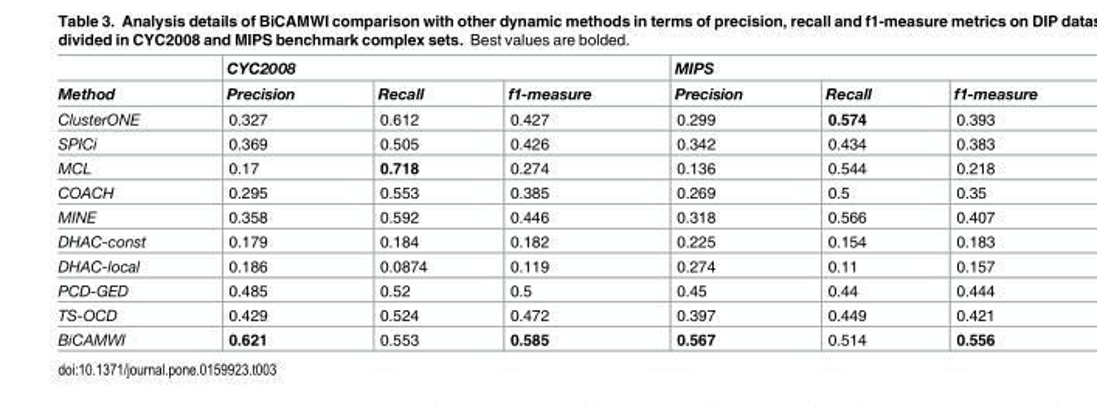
<table><thead><tr><td rowspan="2">Method</td><td colspan="3">CYC2008</td><td colspan="3">MIPS</td></tr><tr><td>Precision</td><td>Recall</td><td>f1-measure</td><td>Precision</td><td>Recall</td><td>f1-measure</td></tr></thead><tbody><tr><td>ClusterONE</td><td>0.327</td><td>0.612</td><td>0.427</td><td>0.299</td><td>0.574</td><td>0.393</td></tr><tr><td>SPICi</td><td>0.369</td><td>0.505</td><td>0.426</td><td>0.342</td><td>0.434</td><td>0.383</td></tr><tr><td>MCL</td><td>0.17</td><td>0.718</td><td>0.274</td><td>0.136</td><td>0.544</td><td>0.218</td></tr><tr><td>COACH</td><td>0.295</td><td>0.553</td><td>0.385</td><td>0.269</td><td>0.5</td><td>0.35</td></tr><tr><td>MINE</td><td>0.358</td><td>0.592</td><td>0.446</td><td>0.318</td><td>0.566</td><td>0.407</td></tr><tr><td>DHAC-const</td><td>0.179</td><td>0.184</td><td>0.182</td><td>0.225</td><td>0.154</td><td>0.183</td></tr><tr><td>DHAC-local</td><td>0.186</td><td>0.0874</td><td>0.119</td><td>0.274</td><td>0.11</td><td>0.157</td></tr><tr><td>PCD-GED</td><td>0.485</td><td>0.52</td><td>0.5</td><td>0.45</td><td>0.44</td><td>0.444</td></tr><tr><td>TS-OCD</td><td>0.429</td><td>0.524</td><td>0.472</td><td>0.397</td><td>0.449</td><td>0.421</td></tr><tr><td>BiCAMWI</td><td>0.621</td><td>0.553</td><td>0.585</td><td>0.567</td><td>0.514</td><td>0.556</td></tr></tbody></table>